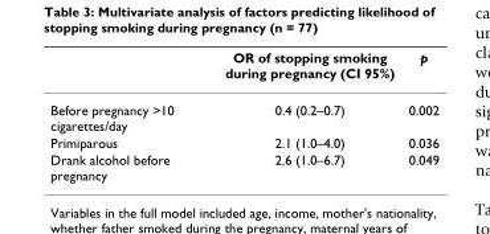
<table><thead><tr><td></td><td>OR of stopping smoking during pregnancy (CI 95%)</td><td>p</td></tr></thead><tbody><tr><td>Before pregnancy &gt;10 cigarettes/day</td><td>0.4 (0.2–0.7)</td><td>0.002</td></tr><tr><td>Primiparous</td><td>2.1 (1.0–4.0)</td><td>0.036</td></tr><tr><td>Drank alcohol before pregnancy</td><td>2.6 (1.0–6.7)</td><td>0.049</td></tr></tbody></table>